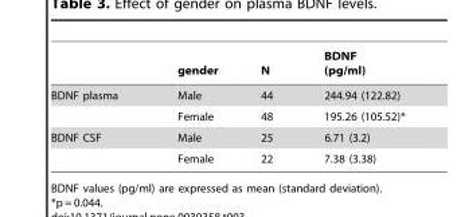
<table><thead><tr><td></td><td>gender</td><td>N</td><td>BDNF (pg/ml)</td></tr></thead><tbody><tr><td rowspan="2">BDNF plasma</td><td>Male</td><td>44</td><td>244.94 (122.82)</td></tr><tr><td>Female</td><td>48</td><td>195.26 (105.52)*</td></tr><tr><td rowspan="2">BDNF CSF</td><td>Male</td><td>25</td><td>6.71 (3.2)</td></tr><tr><td>Female</td><td>22</td><td>7.38 (3.38)</td></tr></tbody></table>